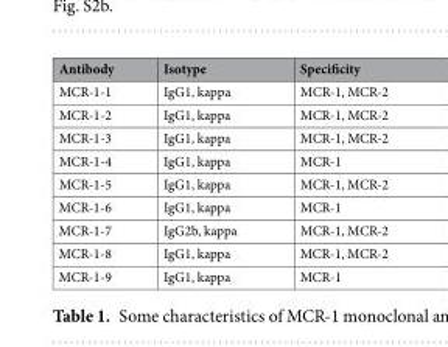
<table><thead><tr><td>Antibody</td><td>Isotype</td><td>Specificity</td></tr></thead><tbody><tr><td>MCR-1-1</td><td>IgG1, kappa</td><td>MCR-1, MCR-2</td></tr><tr><td>MCR-1-2</td><td>IgG1, kappa</td><td>MCR-1, MCR-2</td></tr><tr><td>MCR-1-3</td><td>IgG1, kappa</td><td>MCR-1, MCR-2</td></tr><tr><td>MCR-1-4</td><td>IgG1, kappa</td><td>MCR-1</td></tr><tr><td>MCR-1-5</td><td>IgG1, kappa</td><td>MCR-1, MCR-2</td></tr><tr><td>MCR-1-6</td><td>IgG1, kappa</td><td>MCR-1</td></tr><tr><td>MCR-1-7</td><td>IgG2b, kappa</td><td>MCR-1, MCR-2</td></tr><tr><td>MCR-1-8</td><td>IgG1, kappa</td><td>MCR-1, MCR-2</td></tr><tr><td>MCR-1-9</td><td>IgG1, kappa</td><td>MCR-1</td></tr></tbody></table>